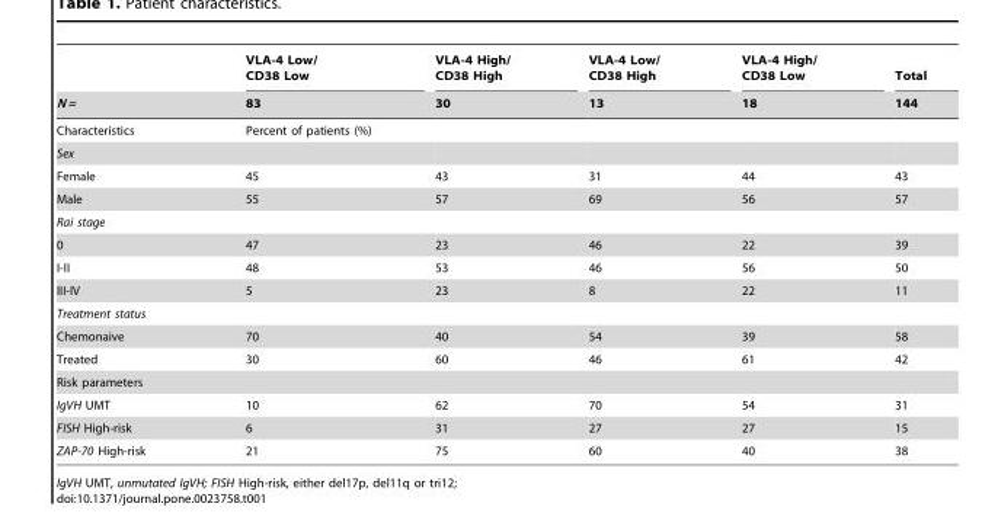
<table><thead><tr><td rowspan="2">N =</td><td rowspan="2">VLA-4 Low/ CD38 Low 83</td><td rowspan="2">VLA-4 High/ CD38 High 30</td><td rowspan="2">VLA-4 Low/ CD38 High 13</td><td rowspan="2">VLA-4 High/ CD38 Low 18</td><td rowspan="2">Total 144</td></tr><tr></tr></thead><tbody><tr><td>Characteristics</td><td colspan="5">Percent of patients (%)</td></tr><tr><td colspan="6">Sex</td></tr><tr><td>Female</td><td>45</td><td>43</td><td>31</td><td>44</td><td>43</td></tr><tr><td>Male</td><td>55</td><td>57</td><td>69</td><td>56</td><td>57</td></tr><tr><td colspan="6">Rai stage</td></tr><tr><td>0</td><td>47</td><td>23</td><td>46</td><td>22</td><td>39</td></tr><tr><td>I-II</td><td>48</td><td>53</td><td>46</td><td>56</td><td>50</td></tr><tr><td>III-IV</td><td>5</td><td>23</td><td>8</td><td>22</td><td>11</td></tr><tr><td colspan="6">Treatment status</td></tr><tr><td>Chemonaive</td><td>70</td><td>40</td><td>54</td><td>39</td><td>58</td></tr><tr><td>Treated</td><td>30</td><td>60</td><td>46</td><td>61</td><td>42</td></tr><tr><td colspan="6">Risk parameters</td></tr><tr><td>IgVH UMT</td><td>10</td><td>62</td><td>70</td><td>54</td><td>31</td></tr><tr><td>FISH High-risk</td><td>6</td><td>31</td><td>27</td><td>27</td><td>15</td></tr><tr><td>ZAP-70 High-risk</td><td>21</td><td>75</td><td>60</td><td>40</td><td>38</td></tr></tbody></table>